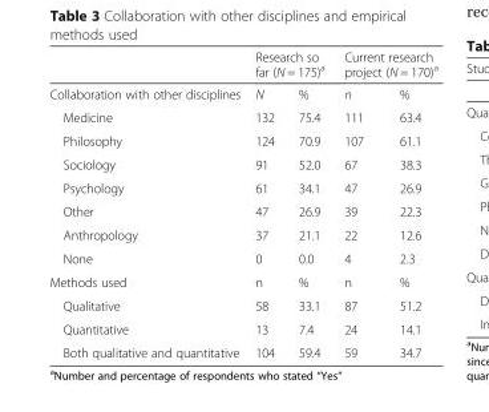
<table><thead><tr><td rowspan="2">Collaboration with other disciplines</td><td colspan="2">Research so far (N = 175)<sup>a</sup></td><td colspan="2">Current research project (N = 170)<sup>a</sup></td></tr><tr><td>N</td><td>%</td><td>n</td><td>%</td></tr></thead><tbody><tr><td>Medicine</td><td>132</td><td>75.4</td><td>111</td><td>63.4</td></tr><tr><td>Philosophy</td><td>124</td><td>70.9</td><td>107</td><td>61.1</td></tr><tr><td>Sociology</td><td>91</td><td>52.0</td><td>67</td><td>38.3</td></tr><tr><td>Psychology</td><td>61</td><td>34.1</td><td>47</td><td>26.9</td></tr><tr><td>Other</td><td>47</td><td>26.9</td><td>39</td><td>22.3</td></tr><tr><td>Anthropology</td><td>37</td><td>21.1</td><td>22</td><td>12.6</td></tr><tr><td>None</td><td>0</td><td>0.0</td><td>4</td><td>2.3</td></tr><tr><td>Methods used</td><td>n</td><td>%</td><td>n</td><td>%</td></tr><tr><td>Qualitative</td><td>58</td><td>33.1</td><td>87</td><td>51.2</td></tr><tr><td>Quantitative</td><td>13</td><td>7.4</td><td>24</td><td>14.1</td></tr><tr><td>Both qualitative and quantitative</td><td>104</td><td>59.4</td><td>59</td><td>34.7</td></tr></tbody></table>